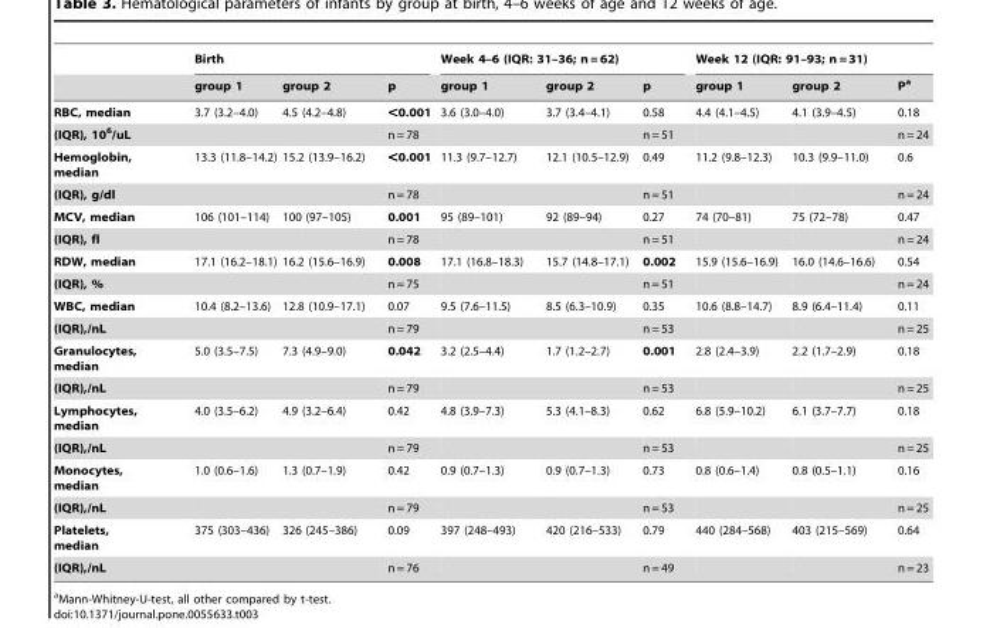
<table><thead><tr><td rowspan="2"></td><td colspan="3">Birth</td><td colspan="3">Week 4–6 (IQR: 31–36; n = 62)</td><td colspan="3">Week 12 (IQR: 91–93; n = 31)</td></tr><tr><td>group 1</td><td>group 2</td><td>p</td><td>group 1</td><td>group 2</td><td>p</td><td>group 1</td><td>group 2</td><td>P<sup>a</sup></td></tr></thead><tbody><tr><td>RBC, median</td><td>3.7 (3.2–4.0)</td><td>4.5 (4.2–4.8)</td><td>&lt;0.001</td><td>3.6 (3.0–4.0)</td><td>3.7 (3.4–4.1)</td><td>0.58</td><td>4.4 (4.1–4.5)</td><td>4.1 (3.9–4.5)</td><td>0.18</td></tr><tr><td>(IQR), 10<sup>6</sup>/uL</td><td></td><td></td><td>n = 78</td><td></td><td></td><td>n = 51</td><td></td><td></td><td>n = 24</td></tr><tr><td>Hemoglobin, median</td><td>13.3 (11.8–14.2)</td><td>15.2 (13.9–16.2)</td><td>&lt;0.001</td><td>11.3 (9.7–12.7)</td><td>12.1 (10.5–12.9)</td><td>0.49</td><td>11.2 (9.8–12.3)</td><td>10.3 (9.9–11.0)</td><td>0.6</td></tr><tr><td>(IQR), g/dl</td><td></td><td></td><td>n = 78</td><td></td><td></td><td>n = 51</td><td></td><td></td><td>n = 24</td></tr><tr><td>MCV, median</td><td>106 (101–114)</td><td>100 (97–105)</td><td>0.001</td><td>95 (89–101)</td><td>92 (89–94)</td><td>0.27</td><td>74 (70–81)</td><td>75 (72–78)</td><td>0.47</td></tr><tr><td>(IQR), fl</td><td></td><td></td><td>n = 78</td><td></td><td></td><td>n = 51</td><td></td><td></td><td>n = 24</td></tr><tr><td>RDW, median</td><td>17.1 (16.2–18.1)</td><td>16.2 (15.6–16.9)</td><td>0.008</td><td>17.1 (16.8–18.3)</td><td>15.7 (14.8–17.1)</td><td>0.002</td><td>15.9 (15.6–16.9)</td><td>16.0 (14.6–16.6)</td><td>0.54</td></tr><tr><td>(IQR), %</td><td></td><td></td><td>n = 75</td><td></td><td></td><td>n = 51</td><td></td><td></td><td>n = 24</td></tr><tr><td>WBC, median</td><td>10.4 (8.2–13.6)</td><td>12.8 (10.9–17.1)</td><td>0.07</td><td>9.5 (7.6–11.5)</td><td>8.5 (6.3–10.9)</td><td>0.35</td><td>10.6 (8.8–14.7)</td><td>8.9 (6.4–11.4)</td><td>0.11</td></tr><tr><td>(IQR),/nL</td><td></td><td></td><td>n = 79</td><td></td><td></td><td>n = 53</td><td></td><td></td><td>n = 25</td></tr><tr><td>Granulocytes, median</td><td>5.0 (3.5–7.5)</td><td>7.3 (4.9–9.0)</td><td>0.042</td><td>3.2 (2.5–4.4)</td><td>1.7 (1.2–2.7)</td><td>0.001</td><td>2.8 (2.4–3.9)</td><td>2.2 (1.7–2.9)</td><td>0.18</td></tr><tr><td>(IQR),/nL</td><td></td><td></td><td>n = 79</td><td></td><td></td><td>n = 53</td><td></td><td></td><td>n = 25</td></tr><tr><td>Lymphocytes, median</td><td>4.0 (3.5–6.2)</td><td>4.9 (3.2–6.4)</td><td>0.42</td><td>4.8 (3.9–7.3)</td><td>5.3 (4.1–8.3)</td><td>0.62</td><td>6.8 (5.9–10.2)</td><td>6.1 (3.7–7.7)</td><td>0.18</td></tr><tr><td>(IQR),/nL</td><td></td><td></td><td>n = 79</td><td></td><td></td><td>n = 53</td><td></td><td></td><td>n = 25</td></tr><tr><td>Monocytes, median</td><td>1.0 (0.6–1.6)</td><td>1.3 (0.7–1.9)</td><td>0.42</td><td>0.9 (0.7–1.3)</td><td>0.9 (0.7–1.3)</td><td>0.73</td><td>0.8 (0.6–1.4)</td><td>0.8 (0.5–1.1)</td><td>0.16</td></tr><tr><td>(IQR),/nL</td><td></td><td></td><td>n = 79</td><td></td><td></td><td>n = 53</td><td></td><td></td><td>n = 25</td></tr><tr><td>Platelets, median</td><td>375 (303–436)</td><td>326 (245–386)</td><td>0.09</td><td>397 (248–493)</td><td>420 (216–533)</td><td>0.79</td><td>440 (284–568)</td><td>403 (215–569)</td><td>0.64</td></tr><tr><td>(IQR),/nL</td><td></td><td></td><td>n = 76</td><td></td><td></td><td>n = 49</td><td></td><td></td><td>n = 23</td></tr></tbody></table>